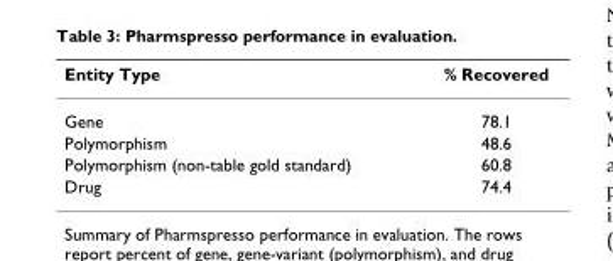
<table><thead><tr><td>Entity Type</td><td>% Recovered</td></tr></thead><tbody><tr><td>Gene</td><td>78.1</td></tr><tr><td>Polymorphism</td><td>48.6</td></tr><tr><td>Polymorphism (non-table gold standard)</td><td>60.8</td></tr><tr><td>Drug</td><td>74.4</td></tr></tbody></table>